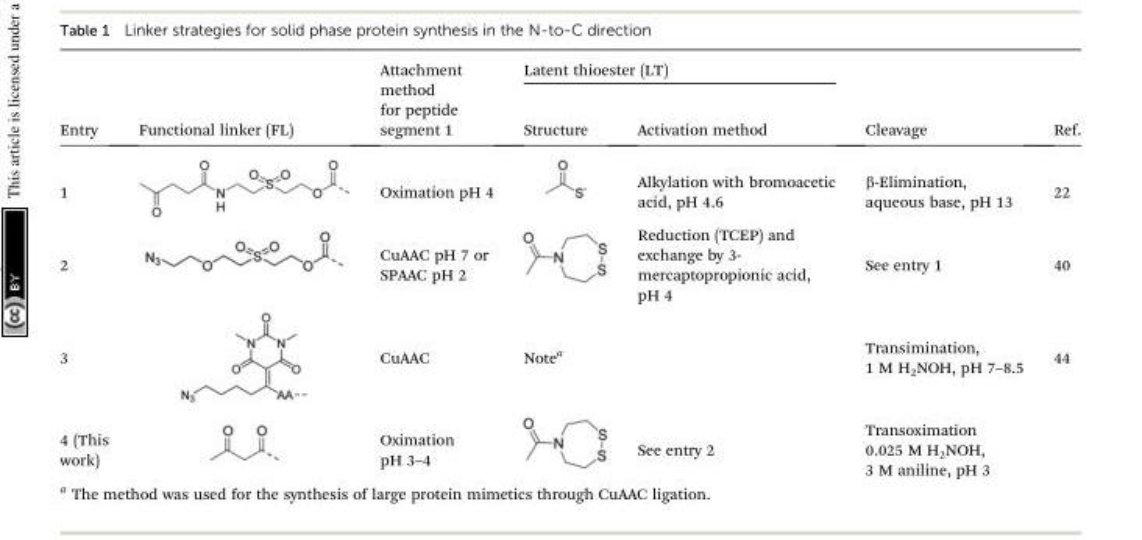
<table><thead><tr><td rowspan="2">Entry</td><td rowspan="2">Functional linker (FL)</td><td rowspan="2">Attachment method for peptide segment 1</td><td colspan="2">Latent thioester (LT)</td><td rowspan="2">Cleavage</td><td rowspan="2">Ref.</td></tr><tr><td>Structure</td><td>Activation method</td></tr></thead><tbody><tr><td>1</td><td></td><td>Oximation pH 4</td><td></td><td>Alkylation with bromoacetic acid, pH 4.6</td><td>β-Elimination, aqueous base, pH 13</td><td>22</td></tr><tr><td>2</td><td></td><td>CuAAC pH 7 or SPAAC pH 2</td><td></td><td>Reduction (TCEP) and exchange by 3- mercaptopropionic acid, pH 4</td><td>See entry 1</td><td>40</td></tr><tr><td>3</td><td></td><td>CuAAC</td><td>Note<sup>a</sup></td><td></td><td>Transimination, 1 M H<sub>2</sub>NOH, pH 7–8.5</td><td>44</td></tr><tr><td>4 (This work)</td><td></td><td>Oximation pH 3–4</td><td></td><td>See entry 2</td><td>Transoximation 0.025 M H<sub>2</sub>NOH, 3 M aniline, pH 3</td><td></td></tr></tbody></table>